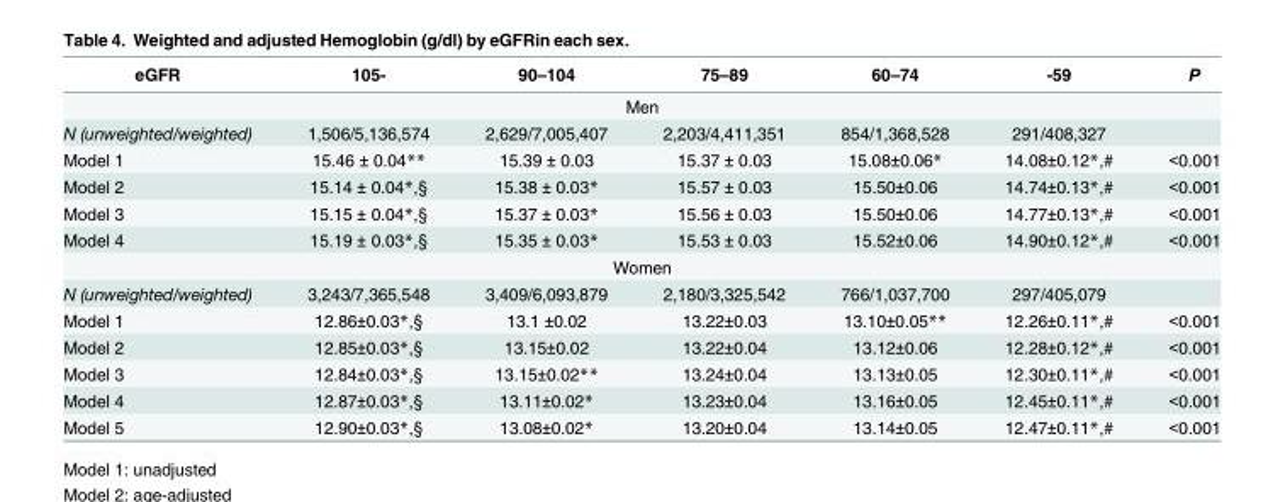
<table><thead><tr><td>eGFR</td><td>105-</td><td>90–104</td><td>75–89</td><td>60–74</td><td>-59</td><td>P</td></tr></thead><tbody><tr><td colspan="7">Men</td></tr><tr><td>N (unweighted/weighted)</td><td>1,506/5,136,574</td><td>2,629/7,005,407</td><td>2,203/4,411,351</td><td>854/1,368,528</td><td>291/408,327</td><td></td></tr><tr><td>Model 1</td><td>15.46 ± 0.04**</td><td>15.39 ± 0.03</td><td>15.37 ± 0.03</td><td>15.08±0.06*</td><td>14.08±0.12*,#</td><td>&lt;0.001</td></tr><tr><td>Model 2</td><td>15.14 ± 0.04*,§</td><td>15.38 ± 0.03*</td><td>15.57 ± 0.03</td><td>15.50±0.06</td><td>14.74±0.13*,#</td><td>&lt;0.001</td></tr><tr><td>Model 3</td><td>15.15 ± 0.04*,§</td><td>15.37 ± 0.03*</td><td>15.56 ± 0.03</td><td>15.50±0.06</td><td>14.77±0.13*,#</td><td>&lt;0.001</td></tr><tr><td>Model 4</td><td>15.19 ± 0.03*,§</td><td>15.35 ± 0.03*</td><td>15.53 ± 0.03</td><td>15.52±0.06</td><td>14.90±0.12*,#</td><td>&lt;0.001</td></tr><tr><td colspan="7">Women</td></tr><tr><td>N (unweighted/weighted)</td><td>3,243/7,365,548</td><td>3,409/6,093,879</td><td>2,180/3,325,542</td><td>766/1,037,700</td><td>297/405,079</td><td></td></tr><tr><td>Model 1</td><td>12.86±0.03*,§</td><td>13.1 ±0.02</td><td>13.22±0.03</td><td>13.10±0.05**</td><td>12.26±0.11*,#</td><td>&lt;0.001</td></tr><tr><td>Model 2</td><td>12.85±0.03*,§</td><td>13.15±0.02</td><td>13.22±0.04</td><td>13.12±0.06</td><td>12.28±0.12*,#</td><td>&lt;0.001</td></tr><tr><td>Model 3</td><td>12.84±0.03*,§</td><td>13.15±0.02**</td><td>13.24±0.04</td><td>13.13±0.05</td><td>12.30±0.11*,#</td><td>&lt;0.001</td></tr><tr><td>Model 4</td><td>12.87±0.03*,§</td><td>13.11±0.02*</td><td>13.23±0.04</td><td>13.16±0.05</td><td>12.45±0.11*,#</td><td>&lt;0.001</td></tr><tr><td>Model 5</td><td>12.90±0.03*,§</td><td>13.08±0.02*</td><td>13.20±0.04</td><td>13.14±0.05</td><td>12.47±0.11*,#</td><td>&lt;0.001</td></tr></tbody></table>